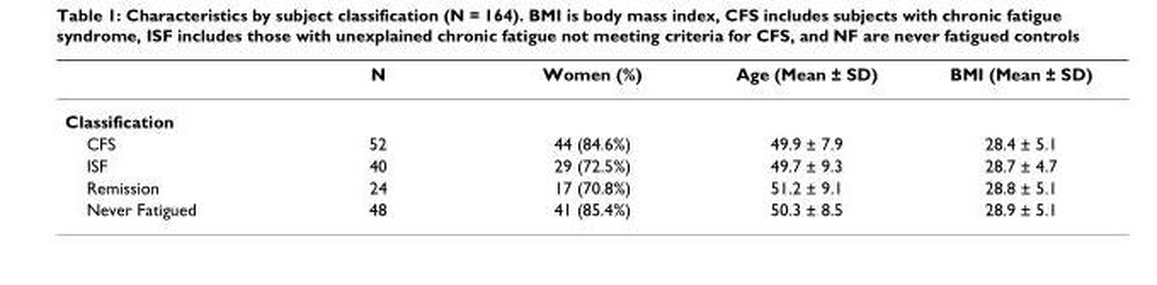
<table><thead><tr><td></td><td>N</td><td>Women (%)</td><td>Age (Mean ± SD)</td><td>BMI (Mean ± SD)</td></tr></thead><tbody><tr><td colspan="5">Classification</td></tr><tr><td>CFS</td><td>52</td><td>44 (84.6%)</td><td>49.9 ± 7.9</td><td>28.4 ± 5.1</td></tr><tr><td>ISF</td><td>40</td><td>29 (72.5%)</td><td>49.7 ± 9.3</td><td>28.7 ± 4.7</td></tr><tr><td>Remission</td><td>24</td><td>17 (70.8%)</td><td>51.2 ± 9.1</td><td>28.8 ± 5.1</td></tr><tr><td>Never Fatigued</td><td>48</td><td>41 (85.4%)</td><td>50.3 ± 8.5</td><td>28.9 ± 5.1</td></tr></tbody></table>